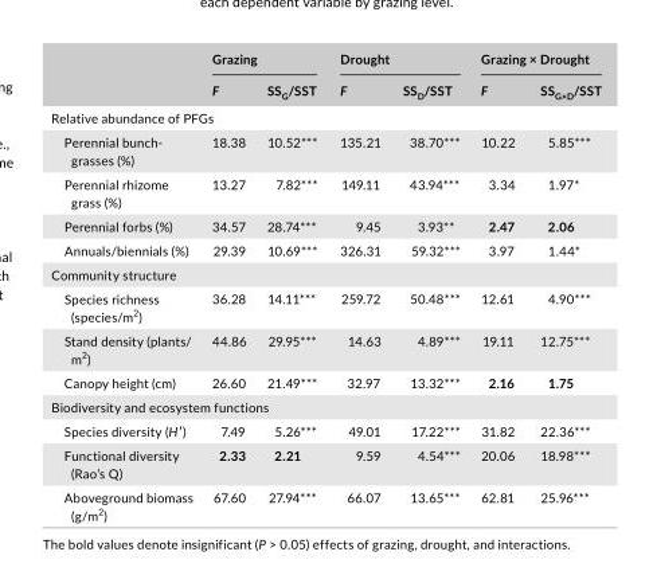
<table><thead><tr><td rowspan="2"></td><td colspan="2">Grazing</td><td colspan="2">Drought</td><td colspan="2">Grazing × Drought</td></tr><tr><td>F</td><td>SS<sub>G</sub>/SST</td><td>F</td><td>SS<sub>D</sub>/SST</td><td>F</td><td>SS<sub>G×D</sub>/SST</td></tr></thead><tbody><tr><td colspan="7">Relative abundance of PFGs</td></tr><tr><td>Perennial bunch- grasses (%)</td><td>18.38</td><td>10.52***</td><td>135.21</td><td>38.70***</td><td>10.22</td><td>5.85***</td></tr><tr><td>Perennial rhizome grass (%)</td><td>13.27</td><td>7.82***</td><td>149.11</td><td>43.94***</td><td>3.34</td><td>1.97*</td></tr><tr><td>Perennial forbs (%)</td><td>34.57</td><td>28.74***</td><td>9.45</td><td>3.93**</td><td>2.47</td><td>2.06</td></tr><tr><td>Annuals/biennials (%)</td><td>29.39</td><td>10.69***</td><td>326.31</td><td>59.32***</td><td>3.97</td><td>1.44*</td></tr><tr><td colspan="7">Community structure</td></tr><tr><td>Species richness (species/m<sup>2</sup>)</td><td>36.28</td><td>14.11***</td><td>259.72</td><td>50.48***</td><td>12.61</td><td>4.90***</td></tr><tr><td>Stand density (plants/ m<sup>2</sup>)</td><td>44.86</td><td>29.95***</td><td>14.63</td><td>4.89***</td><td>19.11</td><td>12.75***</td></tr><tr><td>Canopy height (cm)</td><td>26.60</td><td>21.49***</td><td>32.97</td><td>13.32***</td><td>2.16</td><td>1.75</td></tr><tr><td colspan="7">Biodiversity and ecosystem functions</td></tr><tr><td>Species diversity (H′)</td><td>7.49</td><td>5.26***</td><td>49.01</td><td>17.22***</td><td>31.82</td><td>22.36***</td></tr><tr><td>Functional diversity (Rao’s Q)</td><td>2.33</td><td>2.21</td><td>9.59</td><td>4.54***</td><td>20.06</td><td>18.98***</td></tr><tr><td>Aboveground biomass (g/m<sup>2</sup>)</td><td>67.60</td><td>27.94***</td><td>66.07</td><td>13.65***</td><td>62.81</td><td>25.96***</td></tr></tbody></table>